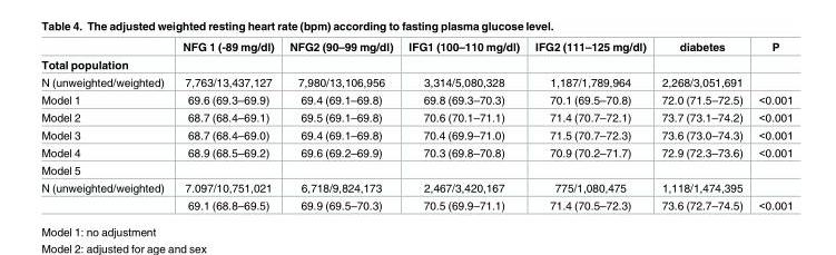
<table><thead><tr><td></td><td>NFG 1 (-89 mg/dl)</td><td>NFG2 (90–99 mg/dl)</td><td>IFG1 (100–110 mg/dl)</td><td>IFG2 (111–125 mg/dl)</td><td>diabetes</td><td>P</td></tr></thead><tbody><tr><td colspan="7">Total population</td></tr><tr><td>N (unweighted/weighted)</td><td>7,763/13,437,127</td><td>7,980/13,106,956</td><td>3,314/5,080,328</td><td>1,187/1,789,964</td><td>2,268/3,051,691</td><td></td></tr><tr><td>Model 1</td><td>69.6 (69.3–69.9)</td><td>69.4 (69.1–69.8)</td><td>69.8 (69.3–70.3)</td><td>70.1 (69.5–70.8)</td><td>72.0 (71.5–72.5)</td><td>&lt;0.001</td></tr><tr><td>Model 2</td><td>68.7 (68.4–69.1)</td><td>69.5 (69.1–69.8)</td><td>70.6 (70.1–71.1)</td><td>71.4 (70.7–72.1)</td><td>73.7 (73.1–74.2)</td><td>&lt;0.001</td></tr><tr><td>Model 3</td><td>68.7 (68.4–69.0)</td><td>69.4 (69.1–69.8)</td><td>70.4 (69.9–71.0)</td><td>71.5 (70.7–72.3)</td><td>73.6 (73.0–74.3)</td><td>&lt;0.001</td></tr><tr><td>Model 4</td><td>68.9 (68.5–69.2)</td><td>69.6 (69.2–69.9)</td><td>70.3 (69.8–70.8)</td><td>70.9 (70.2–71.7)</td><td>72.9 (72.3–73.6)</td><td>&lt;0.001</td></tr><tr><td colspan="7">Model 5</td></tr><tr><td rowspan="2">N (unweighted/weighted)</td><td>7.097/10,751,021</td><td>6,718/9,824,173</td><td>2,467/3,420,167</td><td>775/1,080,475</td><td>1,118/1,474,395</td><td></td></tr><tr><td>69.1 (68.8–69.5)</td><td>69.9 (69.5–70.3)</td><td>70.5 (69.9–71.1)</td><td>71.4 (70.5–72.3)</td><td>73.6 (72.7–74.5)</td><td>&lt;0.001</td></tr></tbody></table>